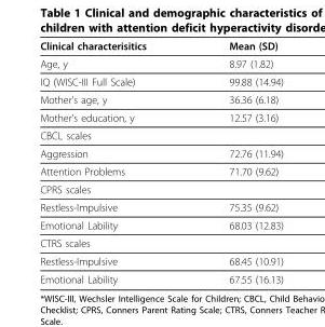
<table><thead><tr><td>Clinical characterisitics</td><td>Mean (SD)</td></tr></thead><tbody><tr><td>Age, y</td><td>8.97 (1.82)</td></tr><tr><td>IQ (WISC-III Full Scale)</td><td>99.88 (14.94)</td></tr><tr><td>Mother’s age, y</td><td>36.36 (6.18)</td></tr><tr><td>Mother’s education, y</td><td>12.57 (3.16)</td></tr><tr><td colspan="2">CBCL scales</td></tr><tr><td>Aggression</td><td>72.76 (11.94)</td></tr><tr><td>Attention Problems</td><td>71.70 (9.62)</td></tr><tr><td colspan="2">CPRS scales</td></tr><tr><td>Restless-Impulsive</td><td>75.35 (9.62)</td></tr><tr><td>Emotional Lability</td><td>68.03 (12.83)</td></tr><tr><td colspan="2">CTRS scales</td></tr><tr><td>Restless-Impulsive</td><td>68.45 (10.91)</td></tr><tr><td>Emotional Lability</td><td>67.55 (16.13)</td></tr></tbody></table>